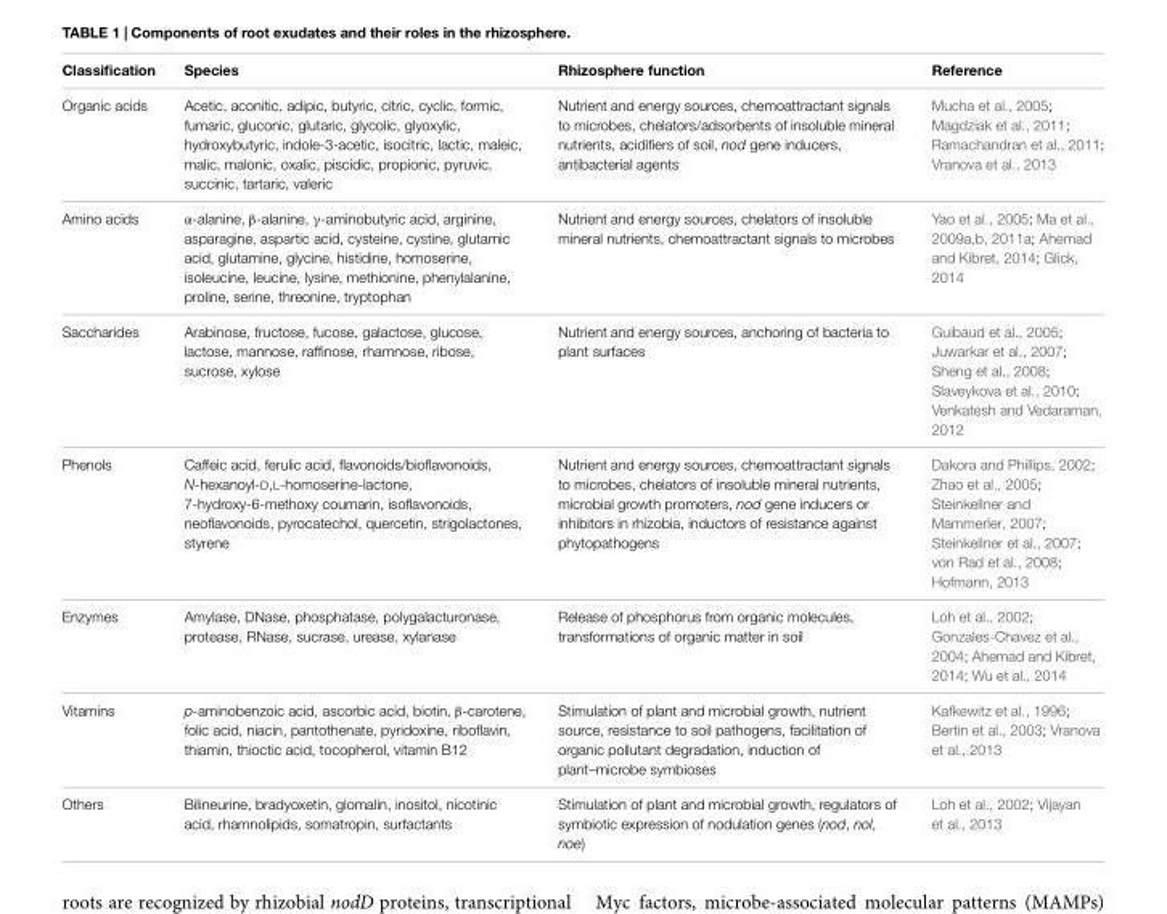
<table><thead><tr><td>Classification</td><td>Species</td><td>Rhizosphere function</td><td>Reference</td></tr></thead><tbody><tr><td>Organic acids</td><td>Acetic, aconitic, adipic, butyric, citric, cyclic, formic, fumaric, gluconic, glutaric, glycolic, glyoxylic, hydroxybutyric, indole-3-acetic, isocitric, lactic, maleic, malic, malonic, oxalic, piscidic, propionic, pyruvic, succinic, tartaric, valeric</td><td>Nutrient and energy sources, chemoattractant signals to microbes, chelators/adsorbents of insoluble mineral nutrients, acidifiers of soil, nod gene inducers, antibacterial agents</td><td>Mucha et al., 2005; Magdziak et al., 2011; Ramachandran et al., 2011; Vranova et al., 2013</td></tr><tr><td>Amino acids</td><td>α-alanine, β-alanine, γ-aminobutyric acid, arginine, asparagine, aspartic acid, cysteine, cystine, glutamic acid, glutamine, glycine, histidine, homoserine, isoleucine, leucine, lysine, methionine, phenylalanine, proline, serine, threonine, tryptophan</td><td>Nutrient and energy sources, chelators of insoluble mineral nutrients, chemoattractant signals to microbes</td><td>Yao et al., 2005; Ma et al., 2009a,b, 2011a; Ahemad and Kibret, 2014; Glick, 2014</td></tr><tr><td>Saccharides</td><td>Arabinose, fructose, fucose, galactose, glucose, lactose, mannose, raffinose, rhamnose, ribose, sucrose, xylose</td><td>Nutrient and energy sources, anchoring of bacteria to plant surfaces</td><td>Guibaud et al., 2005; Juwarkar et al., 2007; Sheng et al., 2008; Slaveykova et al., 2010; Venkatesh and Vedaraman, 2012</td></tr><tr><td>Phenols</td><td>Caffeic acid, ferulic acid, flavonoids/bioflavonoids, N-hexanoyl-D,L-homoserine-lactone, 7-hydroxy-6-methoxy coumarin, isoflavonoids, neoflavonoids, pyrocatechol, quercetin, strigolactones, styrene</td><td>Nutrient and energy sources, chemoattractant signals to microbes, chelators of insoluble mineral nutrients, microbial growth promoters, nod gene inducers or inhibitors in rhizobia, inductors of resistance against phytopathogens</td><td>Dakora and Phillips, 2002; Zhao et al., 2005; Steinkellner and Mammerler, 2007; Steinkellner et al., 2007; von Rad et al., 2008; Hofmann, 2013</td></tr><tr><td>Enzymes</td><td>Amylase, DNase, phosphatase, polygalacturonase, protease, RNase, sucrase, urease, xylanase</td><td>Release of phosphorus from organic molecules, transformations of organic matter in soil</td><td>Loh et al., 2002; Gonzales-Chavez et al., 2004; Ahemad and Kibret, 2014; Wu et al., 2014</td></tr><tr><td>Vitamins</td><td>p-aminobenzoic acid, ascorbic acid, biotin, β-carotene, folic acid, niacin, pantothenate, pyridoxine, riboflavin, thiamin, thioctic acid, tocopherol, vitamin B12</td><td>Stimulation of plant and microbial growth, nutrient source, resistance to soil pathogens, facilitation of organic pollutant degradation, induction of plant–microbe symbioses</td><td>Kafkewitz et al., 1996; Bertin et al., 2003; Vranova et al., 2013</td></tr><tr><td>Others</td><td>Bilineurine, bradyoxetin, glomalin, inositol, nicotinic acid, rhamnolipids, somatropin, surfactants</td><td>Stimulation of plant and microbial growth, regulators of symbiotic expression of nodulation genes (nod, nol, noe)</td><td>Loh et al., 2002; Vijayan et al., 2013</td></tr></tbody></table>